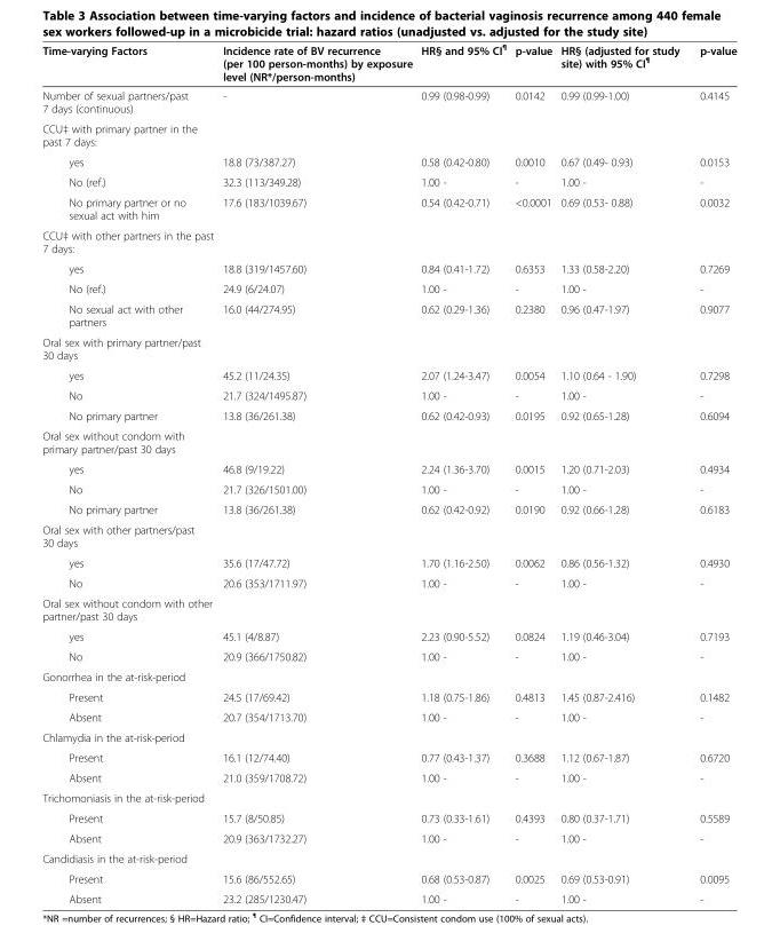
<table><thead><tr><td>Time-varying Factors</td><td>Incidence rate of BV recurrence (per 100 person-months) by exposure level (NR*/person-months)</td><td>HR§ and 95% CI<sup>¶</sup></td><td>p-value</td><td>HR§ (adjusted for study site) with 95% CI<sup>¶</sup></td><td>p-value</td></tr></thead><tbody><tr><td>Number of sexual partners/past 7 days (continuous)</td><td>-</td><td>0.99 (0.98-0.99)</td><td>0.0142</td><td>0.99 (0.99-1.00)</td><td>0.4145</td></tr><tr><td colspan="6">CCU‡ with primary partner in the past 7 days:</td></tr><tr><td>yes</td><td>18.8 (73/387.27)</td><td>0.58 (0.42-0.80)</td><td>0.0010</td><td>0.67 (0.49- 0.93)</td><td>0.0153</td></tr><tr><td>No (ref.)</td><td>32.3 (113/349.28)</td><td>1.00 -</td><td>-</td><td>1.00 -</td><td>-</td></tr><tr><td>No primary partner or no sexual act with him</td><td>17.6 (183/1039.67)</td><td>0.54 (0.42-0.71)</td><td>&lt;0.0001</td><td>0.69 (0.53- 0.88)</td><td>0.0032</td></tr><tr><td colspan="6">CCU‡ with other partners in the past 7 days:</td></tr><tr><td>yes</td><td>18.8 (319/1457.60)</td><td>0.84 (0.41-1.72)</td><td>0.6353</td><td>1.33 (0.58-2.20)</td><td>0.7269</td></tr><tr><td>No (ref.)</td><td>24.9 (6/24.07)</td><td>1.00 -</td><td>-</td><td>1.00 -</td><td>-</td></tr><tr><td>No sexual act with other partners</td><td>16.0 (44/274.95)</td><td>0.62 (0.29-1.36)</td><td>0.2380</td><td>0.96 (0.47-1.97)</td><td>0.9077</td></tr><tr><td colspan="6">Oral sex with primary partner/past 30 days</td></tr><tr><td>yes</td><td>45.2 (11/24.35)</td><td>2.07 (1.24-3.47)</td><td>0.0054</td><td>1.10 (0.64 - 1.90)</td><td>0.7298</td></tr><tr><td>No</td><td>21.7 (324/1495.87)</td><td>1.00 -</td><td>-</td><td>1.00 -</td><td>-</td></tr><tr><td>No primary partner</td><td>13.8 (36/261.38)</td><td>0.62 (0.42-0.93)</td><td>0.0195</td><td>0.92 (0.65-1.28)</td><td>0.6094</td></tr><tr><td colspan="6">Oral sex without condom with primary partner/past 30 days</td></tr><tr><td>yes</td><td>46.8 (9/19.22)</td><td>2.24 (1.36-3.70)</td><td>0.0015</td><td>1.20 (0.71-2.03)</td><td>0.4934</td></tr><tr><td>No</td><td>21.7 (326/1501.00)</td><td>1.00 -</td><td>-</td><td>1.00 -</td><td>-</td></tr><tr><td>No primary partner</td><td>13.8 (36/261.38)</td><td>0.62 (0.42-0.92)</td><td>0.0190</td><td>0.92 (0.66-1.28)</td><td>0.6183</td></tr><tr><td colspan="6">Oral sex with other partners/past 30 days</td></tr><tr><td>yes</td><td>35.6 (17/47.72)</td><td>1.70 (1.16-2.50)</td><td>0.0062</td><td>0.86 (0.56-1.32)</td><td>0.4930</td></tr><tr><td>No</td><td>20.6 (353/1711.97)</td><td>1.00 -</td><td>-</td><td>1.00 -</td><td>-</td></tr><tr><td colspan="6">Oral sex without condom with other partner/past 30 days</td></tr><tr><td>yes</td><td>45.1 (4/8.87)</td><td>2.23 (0.90-5.52)</td><td>0.0824</td><td>1.19 (0.46-3.04)</td><td>0.7193</td></tr><tr><td>No</td><td>20.9 (366/1750.82)</td><td>1.00 -</td><td>-</td><td>1.00 -</td><td>-</td></tr><tr><td colspan="6">Gonorrhea in the at-risk-period</td></tr><tr><td>Present</td><td>24.5 (17/69.42)</td><td>1.18 (0.75-1.86)</td><td>0.4813</td><td>1.45 (0.87-2.416)</td><td>0.1482</td></tr><tr><td>Absent</td><td>20.7 (354/1713.70)</td><td>1.00 -</td><td>-</td><td>1.00 -</td><td>-</td></tr><tr><td colspan="6">Chlamydia in the at-risk-period</td></tr><tr><td>Present</td><td>16.1 (12/74.40)</td><td>0.77 (0.43-1.37)</td><td>0.3688</td><td>1.12 (0.67-1.87)</td><td>0.6720</td></tr><tr><td>Absent</td><td>21.0 (359/1708.72)</td><td>1.00 -</td><td>-</td><td>1.00 -</td><td>-</td></tr><tr><td colspan="6">Trichomoniasis in the at-risk-period</td></tr><tr><td>Present</td><td>15.7 (8/50.85)</td><td>0.73 (0.33-1.61)</td><td>0.4393</td><td>0.80 (0.37-1.71)</td><td>0.5589</td></tr><tr><td>Absent</td><td>20.9 (363/1732.27)</td><td>1.00 -</td><td>-</td><td>1.00 -</td><td>-</td></tr><tr><td colspan="6">Candidiasis in the at-risk-period</td></tr><tr><td>Present</td><td>15.6 (86/552.65)</td><td>0.68 (0.53-0.87)</td><td>0.0025</td><td>0.69 (0.53-0.91)</td><td>0.0095</td></tr><tr><td>Absent</td><td>23.2 (285/1230.47)</td><td>1.00 -</td><td>-</td><td>1.00 -</td><td>-</td></tr></tbody></table>